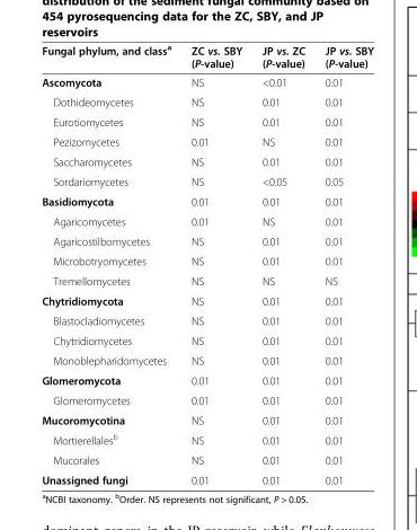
<table><thead><tr><td>Fungal phylum, and class<sup>a</sup></td><td>ZC vs. SBY (P-value)</td><td>JP vs. ZC (P-value)</td><td>JP vs. SBY (P-value)</td></tr></thead><tbody><tr><td>Ascomycota</td><td>NS</td><td>&lt;0.01</td><td>0.01</td></tr><tr><td>Dothideomycetes</td><td>NS</td><td>0.01</td><td>0.01</td></tr><tr><td>Eurotiomycetes</td><td>NS</td><td>0.01</td><td>0.01</td></tr><tr><td>Pezizomycetes</td><td>0.01</td><td>NS</td><td>0.01</td></tr><tr><td>Saccharomycetes</td><td>NS</td><td>0.01</td><td>0.01</td></tr><tr><td>Sordariomycetes</td><td>NS</td><td>&lt;0.05</td><td>0.05</td></tr><tr><td>Basidiomycota</td><td>0.01</td><td>0.01</td><td>0.01</td></tr><tr><td>Agaricomycetes</td><td>0.01</td><td>NS</td><td>0.01</td></tr><tr><td>Agaricostilbomycetes</td><td>NS</td><td>0.01</td><td>0.01</td></tr><tr><td>Microbotryomycetes</td><td>NS</td><td>0.01</td><td>0.01</td></tr><tr><td>Tremellomycetes</td><td>NS</td><td>NS</td><td>NS</td></tr><tr><td>Chytridiomycota</td><td>NS</td><td>0.01</td><td>0.01</td></tr><tr><td>Blastocladiomycetes</td><td>NS</td><td>0.01</td><td>0.01</td></tr><tr><td>Chytridiomycetes</td><td>NS</td><td>0.01</td><td>0.01</td></tr><tr><td>Monoblepharidomycetes</td><td>NS</td><td>0.01</td><td>0.01</td></tr><tr><td>Glomeromycota</td><td>0.01</td><td>0.01</td><td>0.01</td></tr><tr><td>Glomeromycetes</td><td>0.01</td><td>0.01</td><td>0.01</td></tr><tr><td>Mucoromycotina</td><td>NS</td><td>0.01</td><td>0.01</td></tr><tr><td>Mortierellales<sup>b</sup></td><td>NS</td><td>0.01</td><td>0.01</td></tr><tr><td>Mucorales</td><td>NS</td><td>0.01</td><td>0.01</td></tr><tr><td>Unassigned fungi</td><td>0.01</td><td>0.01</td><td>0.01</td></tr></tbody></table>